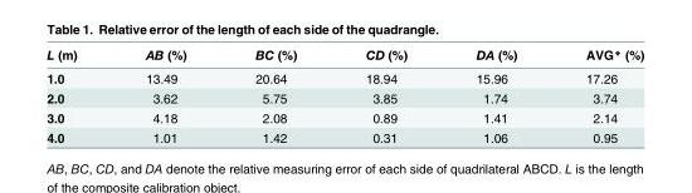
<table><thead><tr><td>L (m)</td><td>AB (%)</td><td>BC (%)</td><td>CD (%)</td><td>DA (%)</td><td>AVG* (%)</td></tr></thead><tbody><tr><td>1.0</td><td>13.49</td><td>20.64</td><td>18.94</td><td>15.96</td><td>17.26</td></tr><tr><td>2.0</td><td>3.62</td><td>5.75</td><td>3.85</td><td>1.74</td><td>3.74</td></tr><tr><td>3.0</td><td>4.18</td><td>2.08</td><td>0.89</td><td>1.41</td><td>2.14</td></tr><tr><td>4.0</td><td>1.01</td><td>1.42</td><td>0.31</td><td>1.06</td><td>0.95</td></tr></tbody></table>